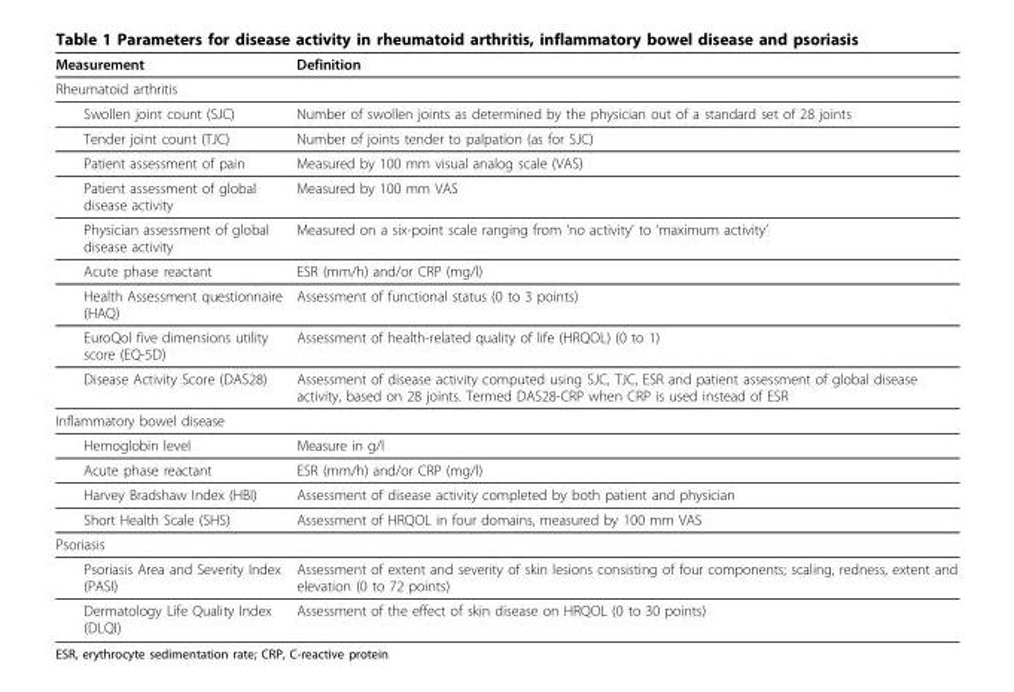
<table><thead><tr><td>Measurement</td><td>Definition</td></tr></thead><tbody><tr><td colspan="2">Rheumatoid arthritis</td></tr><tr><td>Swollen joint count (SJC)</td><td>Number of swollen joints as determined by the physician out of a standard set of 28 joints</td></tr><tr><td>Tender joint count (TJC)</td><td>Number of joints tender to palpation (as for SJC)</td></tr><tr><td>Patient assessment of pain</td><td>Measured by 100 mm visual analog scale (VAS)</td></tr><tr><td>Patient assessment of global disease activity</td><td>Measured by 100 mm VAS</td></tr><tr><td>Physician assessment of global disease activity</td><td>Measured on a six-point scale ranging from ‘no activity’ to ‘maximum activity’</td></tr><tr><td>Acute phase reactant</td><td>ESR (mm/h) and/or CRP (mg/l)</td></tr><tr><td>Health Assessment questionnaire (HAQ)</td><td>Assessment of functional status (0 to 3 points)</td></tr><tr><td>EuroQol five dimensions utility score (EQ-5D)</td><td>Assessment of health-related quality of life (HRQOL) (0 to 1)</td></tr><tr><td>Disease Activity Score (DAS28)</td><td>Assessment of disease activity computed using SJC, TJC, ESR and patient assessment of global disease activity, based on 28 joints. Termed DAS28-CRP when CRP is used instead of ESR</td></tr><tr><td colspan="2">Inflammatory bowel disease</td></tr><tr><td>Hemoglobin level</td><td>Measure in g/l</td></tr><tr><td>Acute phase reactant</td><td>ESR (mm/h) and/or CRP (mg/l)</td></tr><tr><td>Harvey Bradshaw Index (HBI)</td><td>Assessment of disease activity completed by both patient and physician</td></tr><tr><td>Short Health Scale (SHS)</td><td>Assessment of HRQOL in four domains, measured by 100 mm VAS</td></tr><tr><td colspan="2">Psoriasis</td></tr><tr><td>Psoriasis Area and Severity Index (PASI)</td><td>Assessment of extent and severity of skin lesions consisting of four components; scaling, redness, extent and elevation (0 to 72 points)</td></tr><tr><td>Dermatology Life Quality Index (DLQI)</td><td>Assessment of the effect of skin disease on HRQOL (0 to 30 points)</td></tr></tbody></table>